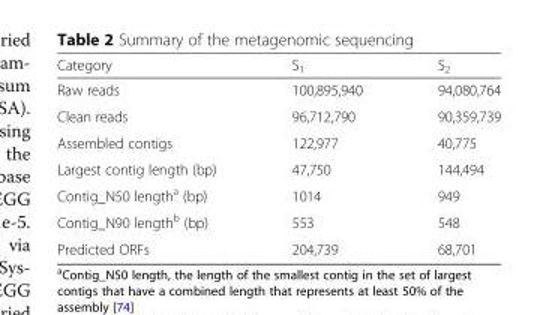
<table><thead><tr><td>Category</td><td>S<sub>1</sub></td><td>S<sub>2</sub></td></tr></thead><tbody><tr><td>Raw reads</td><td>100,895,940</td><td>94,080,764</td></tr><tr><td>Clean reads</td><td>96,712,790</td><td>90,359,739</td></tr><tr><td>Assembled contigs</td><td>122,977</td><td>40,775</td></tr><tr><td>Largest contig length (bp)</td><td>47,750</td><td>144,494</td></tr><tr><td>Contig_N50 length<sup>a</sup> (bp)</td><td>1014</td><td>949</td></tr><tr><td>Contig_N90 length<sup>b</sup> (bp)</td><td>553</td><td>548</td></tr><tr><td>Predicted ORFs</td><td>204,739</td><td>68,701</td></tr></tbody></table>